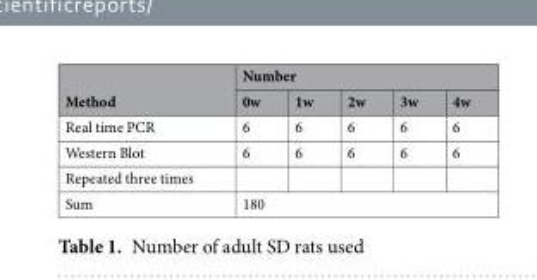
<table><thead><tr><td rowspan="2">Method</td><td colspan="5">Number</td></tr><tr><td>0w</td><td>1w</td><td>2w</td><td>3w</td><td>4w</td></tr></thead><tbody><tr><td>Real time PCR</td><td>6</td><td>6</td><td>6</td><td>6</td><td>6</td></tr><tr><td>Western Blot</td><td>6</td><td>6</td><td>6</td><td>6</td><td>6</td></tr><tr><td colspan="6">Repeated three times</td></tr><tr><td>Sum</td><td colspan="5">180</td></tr></tbody></table>